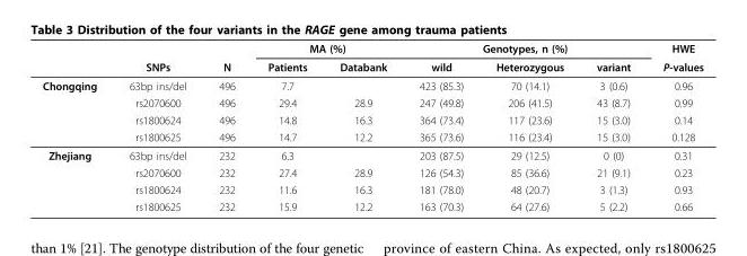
<table><thead><tr><td rowspan="2"></td><td rowspan="2">SNPs</td><td rowspan="2">N</td><td colspan="2">MA (%)</td><td colspan="3">Genotypes, n (%)</td><td rowspan="2">HWE P-values</td></tr><tr><td>Patients</td><td>Databank</td><td>wild</td><td>Heterozygous</td><td>variant</td></tr></thead><tbody><tr><td rowspan="4">Chongqing</td><td>63bp ins/del</td><td>496</td><td>7.7</td><td></td><td>423 (85.3)</td><td>70 (14.1)</td><td>3 (0.6)</td><td>0.96</td></tr><tr><td>rs2070600</td><td>496</td><td>29.4</td><td>28.9</td><td>247 (49.8)</td><td>206 (41.5)</td><td>43 (8.7)</td><td>0.99</td></tr><tr><td>rs1800624</td><td>496</td><td>14.8</td><td>16.3</td><td>364 (73.4)</td><td>117 (23.6)</td><td>15 (3.0)</td><td>0.14</td></tr><tr><td>rs1800625</td><td>496</td><td>14.7</td><td>12.2</td><td>365 (73.6)</td><td>116 (23.4)</td><td>15 (3.0)</td><td>0.128</td></tr><tr><td rowspan="4">Zhejiang</td><td>63bp ins/del</td><td>232</td><td>6.3</td><td></td><td>203 (87.5)</td><td>29 (12.5)</td><td>0 (0)</td><td>0.31</td></tr><tr><td>rs2070600</td><td>232</td><td>27.4</td><td>28.9</td><td>126 (54.3)</td><td>85 (36.6)</td><td>21 (9.1)</td><td>0.23</td></tr><tr><td>rs1800624</td><td>232</td><td>11.6</td><td>16.3</td><td>181 (78.0)</td><td>48 (20.7)</td><td>3 (1.3)</td><td>0.93</td></tr><tr><td>rs1800625</td><td>232</td><td>15.9</td><td>12.2</td><td>163 (70.3)</td><td>64 (27.6)</td><td>5 (2.2)</td><td>0.66</td></tr></tbody></table>